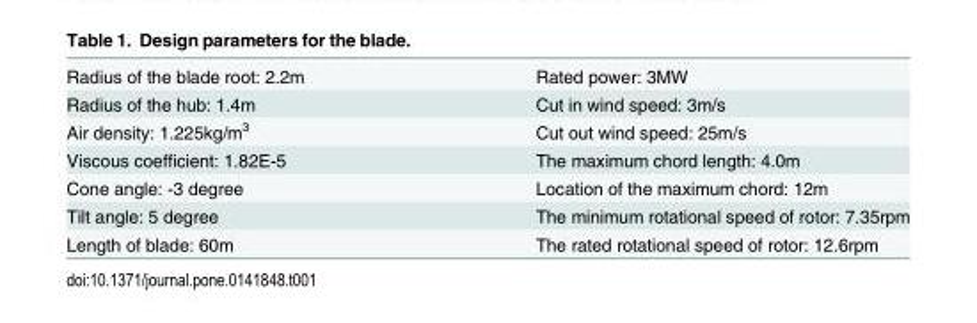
<table><tbody><tr><td>Radius of the blade root: 2.2m</td><td>Rated power: 3MW</td></tr><tr><td>Radius of the hub: 1.4m</td><td>Cut in wind speed: 3m/s</td></tr><tr><td>Air density: 1.225kg/m<sup>3</sup></td><td>Cut out wind speed: 25m/s</td></tr><tr><td>Viscous coefficient: 1.82E-5</td><td>The maximum chord length: 4.0m</td></tr><tr><td>Cone angle: -3 degree</td><td>Location of the maximum chord: 12m</td></tr><tr><td>Tilt angle: 5 degree</td><td>The minimum rotational speed of rotor: 7.35rpm</td></tr><tr><td>Length of blade: 60m</td><td>The rated rotational speed of rotor: 12.6rpm</td></tr></tbody></table>